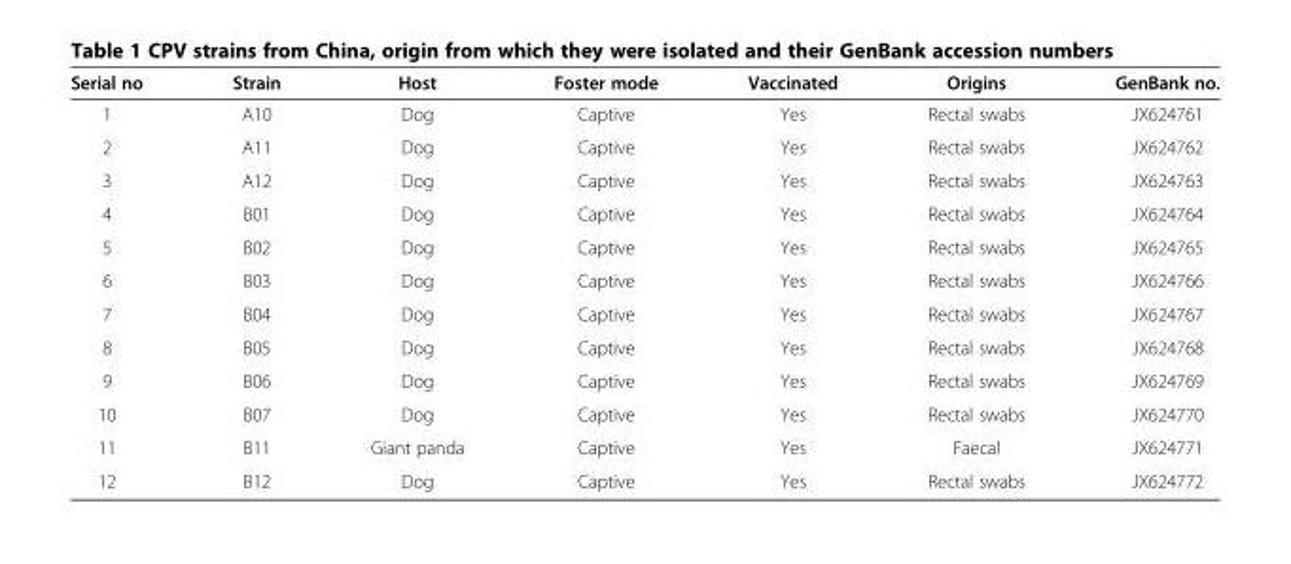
<table><thead><tr><td>Serial no</td><td>Strain</td><td>Host</td><td>Foster mode</td><td>Vaccinated</td><td>Origins</td><td>GenBank no.</td></tr></thead><tbody><tr><td>1</td><td>A10</td><td>Dog</td><td>Captive</td><td>Yes</td><td>Rectal swabs</td><td>JX624761</td></tr><tr><td>2</td><td>A11</td><td>Dog</td><td>Captive</td><td>Yes</td><td>Rectal swabs</td><td>JX624762</td></tr><tr><td>3</td><td>A12</td><td>Dog</td><td>Captive</td><td>Yes</td><td>Rectal swabs</td><td>JX624763</td></tr><tr><td>4</td><td>B01</td><td>Dog</td><td>Captive</td><td>Yes</td><td>Rectal swabs</td><td>JX624764</td></tr><tr><td>5</td><td>B02</td><td>Dog</td><td>Captive</td><td>Yes</td><td>Rectal swabs</td><td>JX624765</td></tr><tr><td>6</td><td>B03</td><td>Dog</td><td>Captive</td><td>Yes</td><td>Rectal swabs</td><td>JX624766</td></tr><tr><td>7</td><td>B04</td><td>Dog</td><td>Captive</td><td>Yes</td><td>Rectal swabs</td><td>JX624767</td></tr><tr><td>8</td><td>B05</td><td>Dog</td><td>Captive</td><td>Yes</td><td>Rectal swabs</td><td>JX624768</td></tr><tr><td>9</td><td>B06</td><td>Dog</td><td>Captive</td><td>Yes</td><td>Rectal swabs</td><td>JX624769</td></tr><tr><td>10</td><td>B07</td><td>Dog</td><td>Captive</td><td>Yes</td><td>Rectal swabs</td><td>JX624770</td></tr><tr><td>11</td><td>B11</td><td>Giant panda</td><td>Captive</td><td>Yes</td><td>Faecal</td><td>JX624771</td></tr><tr><td>12</td><td>B12</td><td>Dog</td><td>Captive</td><td>Yes</td><td>Rectal swabs</td><td>JX624772</td></tr></tbody></table>